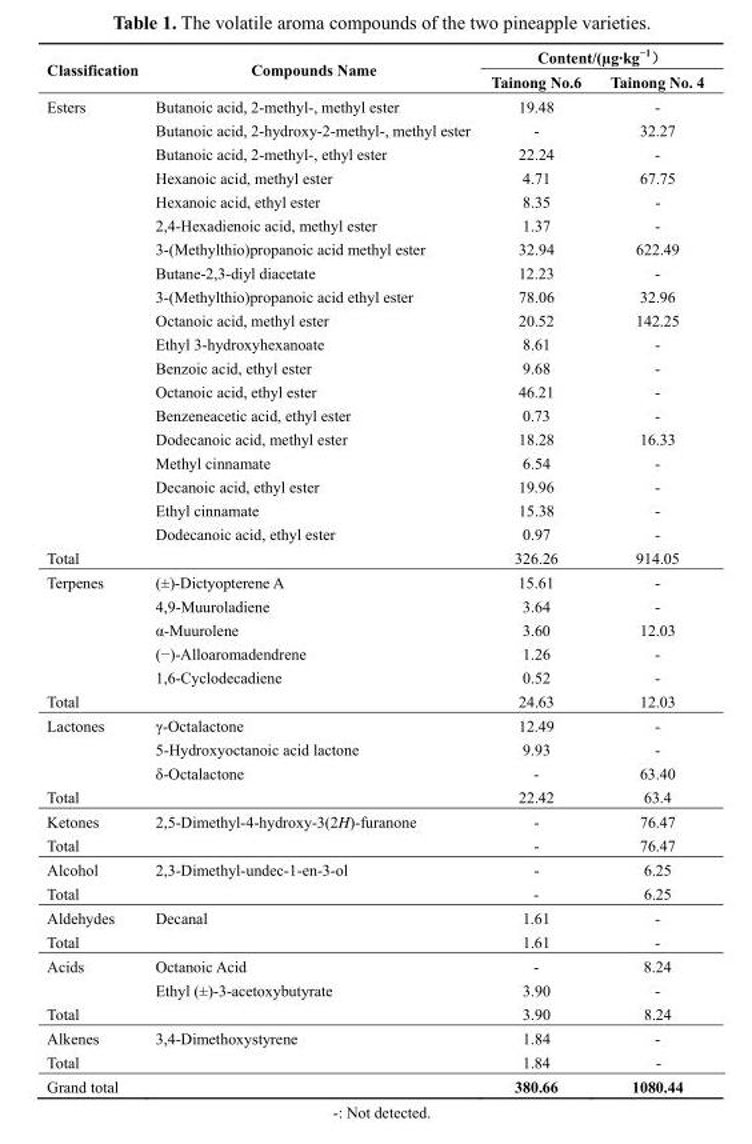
<table><thead><tr><td rowspan="2">Classification</td><td rowspan="2">Compounds Name</td><td colspan="2">Content/(µg·kg<sup>−1</sup>）</td></tr><tr><td>Tainong No.6</td><td>Tainong No. 4</td></tr></thead><tbody><tr><td rowspan="19">Esters</td><td>Butanoic acid, 2-methyl-, methyl ester</td><td>19.48</td><td>-</td></tr><tr><td>Butanoic acid, 2-hydroxy-2-methyl-, methyl ester</td><td>-</td><td>32.27</td></tr><tr><td>Butanoic acid, 2-methyl-, ethyl ester</td><td>22.24</td><td>-</td></tr><tr><td>Hexanoic acid, methyl ester</td><td>4.71</td><td>67.75</td></tr><tr><td>Hexanoic acid, ethyl ester</td><td>8.35</td><td>-</td></tr><tr><td>2,4-Hexadienoic acid, methyl ester</td><td>1.37</td><td>-</td></tr><tr><td>3-(Methylthio)propanoic acid methyl ester</td><td>32.94</td><td>622.49</td></tr><tr><td>Butane-2,3-diyl diacetate</td><td>12.23</td><td>-</td></tr><tr><td>3-(Methylthio)propanoic acid ethyl ester</td><td>78.06</td><td>32.96</td></tr><tr><td>Octanoic acid, methyl ester</td><td>20.52</td><td>142.25</td></tr><tr><td>Ethyl 3-hydroxyhexanoate</td><td>8.61</td><td>-</td></tr><tr><td>Benzoic acid, ethyl ester</td><td>9.68</td><td>-</td></tr><tr><td>Octanoic acid, ethyl ester</td><td>46.21</td><td>-</td></tr><tr><td>Benzeneacetic acid, ethyl ester</td><td>0.73</td><td>-</td></tr><tr><td>Dodecanoic acid, methyl ester</td><td>18.28</td><td>16.33</td></tr><tr><td>Methyl cinnamate</td><td>6.54</td><td>-</td></tr><tr><td>Decanoic acid, ethyl ester</td><td>19.96</td><td>-</td></tr><tr><td>Ethyl cinnamate</td><td>15.38</td><td>-</td></tr><tr><td>Dodecanoic acid, ethyl ester</td><td>0.97</td><td>-</td></tr><tr><td>Total</td><td></td><td>326.26</td><td>914.05</td></tr><tr><td rowspan="5">Terpenes</td><td>(±)-Dictyopterene A</td><td>15.61</td><td>-</td></tr><tr><td>4,9-Muuroladiene</td><td>3.64</td><td>-</td></tr><tr><td>α-Muurolene</td><td>3.60</td><td>12.03</td></tr><tr><td>(−)-Alloaromadendrene</td><td>1.26</td><td>-</td></tr><tr><td>1,6-Cyclodecadiene</td><td>0.52</td><td>-</td></tr><tr><td>Total</td><td></td><td>24.63</td><td>12.03</td></tr><tr><td rowspan="3">Lactones</td><td>γ-Octalactone</td><td>12.49</td><td>-</td></tr><tr><td>5-Hydroxyoctanoic acid lactone</td><td>9.93</td><td>-</td></tr><tr><td>δ-Octalactone</td><td>-</td><td>63.40</td></tr><tr><td>Total</td><td></td><td>22.42</td><td>63.4</td></tr><tr><td>Ketones</td><td>2,5-Dimethyl-4-hydroxy-3(2H)-furanone</td><td>-</td><td>76.47</td></tr><tr><td>Total</td><td></td><td>-</td><td>76.47</td></tr><tr><td>Alcohol</td><td>2,3-Dimethyl-undec-1-en-3-ol</td><td>-</td><td>6.25</td></tr><tr><td>Total</td><td></td><td>-</td><td>6.25</td></tr><tr><td>Aldehydes</td><td>Decanal</td><td>1.61</td><td>-</td></tr><tr><td>Total</td><td></td><td>1.61</td><td>-</td></tr><tr><td rowspan="2">Acids</td><td>Octanoic Acid</td><td>-</td><td>8.24</td></tr><tr><td>Ethyl (±)-3-acetoxybutyrate</td><td>3.90</td><td>-</td></tr><tr><td>Total</td><td></td><td>3.90</td><td>8.24</td></tr><tr><td>Alkenes</td><td>3,4-Dimethoxystyrene</td><td>1.84</td><td>-</td></tr><tr><td>Total</td><td></td><td>1.84</td><td>-</td></tr><tr><td>Grand total</td><td></td><td>380.66</td><td>1080.44</td></tr></tbody></table>